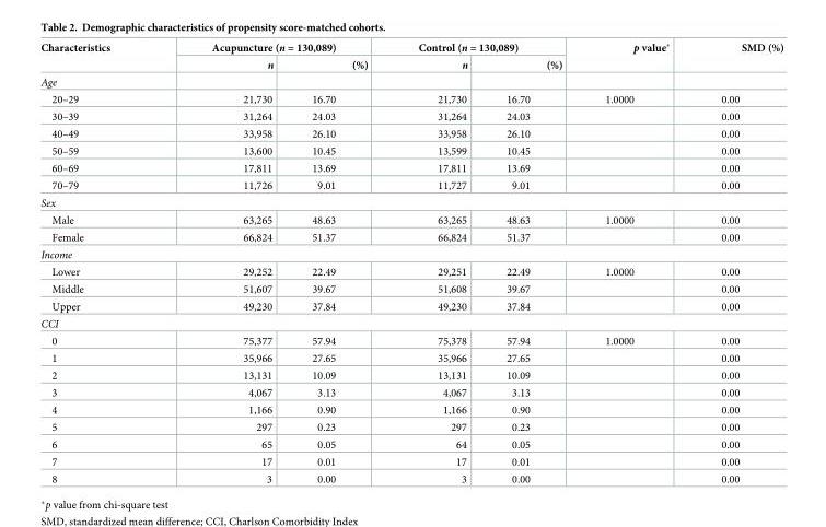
<table><thead><tr><td rowspan="2">Characteristics</td><td colspan="2">Acupuncture (n = 130,089)</td><td colspan="2">Control (n = 130,089)</td><td rowspan="2">p value*</td><td rowspan="2">SMD (%)</td></tr><tr><td>n</td><td>(%)</td><td>n</td><td>(%)</td></tr></thead><tbody><tr><td colspan="7">Age</td></tr><tr><td>20–29</td><td>21,730</td><td>16.70</td><td>21,730</td><td>16.70</td><td>1.0000</td><td>0.00</td></tr><tr><td>30–39</td><td>31,264</td><td>24.03</td><td>31,264</td><td>24.03</td><td></td><td>0.00</td></tr><tr><td>40–49</td><td>33,958</td><td>26.10</td><td>33,958</td><td>26.10</td><td></td><td>0.00</td></tr><tr><td>50–59</td><td>13,600</td><td>10.45</td><td>13,599</td><td>10.45</td><td></td><td>0.00</td></tr><tr><td>60–69</td><td>17,811</td><td>13.69</td><td>17,811</td><td>13.69</td><td></td><td>0.00</td></tr><tr><td>70–79</td><td>11,726</td><td>9.01</td><td>11,727</td><td>9.01</td><td></td><td>0.00</td></tr><tr><td colspan="7">Sex</td></tr><tr><td>Male</td><td>63,265</td><td>48.63</td><td>63,265</td><td>48.63</td><td>1.0000</td><td>0.00</td></tr><tr><td>Female</td><td>66,824</td><td>51.37</td><td>66,824</td><td>51.37</td><td></td><td>0.00</td></tr><tr><td colspan="7">Income</td></tr><tr><td>Lower</td><td>29,252</td><td>22.49</td><td>29,251</td><td>22.49</td><td>1.0000</td><td>0.00</td></tr><tr><td>Middle</td><td>51,607</td><td>39.67</td><td>51,608</td><td>39.67</td><td></td><td>0.00</td></tr><tr><td>Upper</td><td>49,230</td><td>37.84</td><td>49,230</td><td>37.84</td><td></td><td>0.00</td></tr><tr><td colspan="7">CCI</td></tr><tr><td>0</td><td>75,377</td><td>57.94</td><td>75,378</td><td>57.94</td><td>1.0000</td><td>0.00</td></tr><tr><td>1</td><td>35,966</td><td>27.65</td><td>35,966</td><td>27.65</td><td></td><td>0.00</td></tr><tr><td>2</td><td>13,131</td><td>10.09</td><td>13,131</td><td>10.09</td><td></td><td>0.00</td></tr><tr><td>3</td><td>4,067</td><td>3.13</td><td>4,067</td><td>3.13</td><td></td><td>0.00</td></tr><tr><td>4</td><td>1,166</td><td>0.90</td><td>1,166</td><td>0.90</td><td></td><td>0.00</td></tr><tr><td>5</td><td>297</td><td>0.23</td><td>297</td><td>0.23</td><td></td><td>0.00</td></tr><tr><td>6</td><td>65</td><td>0.05</td><td>64</td><td>0.05</td><td></td><td>0.00</td></tr><tr><td>7</td><td>17</td><td>0.01</td><td>17</td><td>0.01</td><td></td><td>0.00</td></tr><tr><td>8</td><td>3</td><td>0.00</td><td>3</td><td>0.00</td><td></td><td>0.00</td></tr></tbody></table>